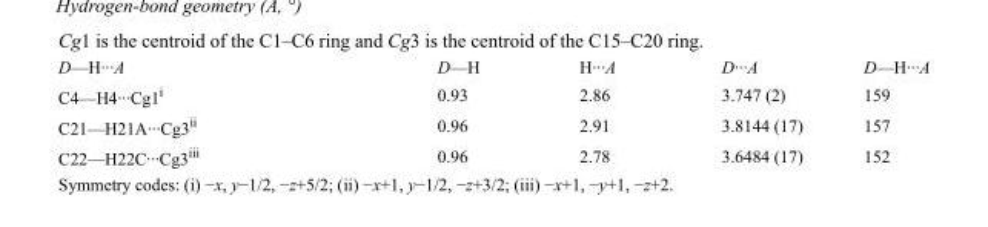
<table><tbody><tr><td>D—H···A</td><td>D—H</td><td>H···A</td><td>D···A</td><td>D—H···A</td></tr><tr><td>C4—H4···Cg1<sup>i</sup></td><td>0.93</td><td>2.86</td><td>3.747 (2)</td><td>159</td></tr><tr><td>C21—H21A···Cg3<sup>ii</sup></td><td>0.96</td><td>2.91</td><td>3.8144 (17)</td><td>157</td></tr><tr><td>C22—H22C···Cg3<sup>iii</sup></td><td>0.96</td><td>2.78</td><td>3.6484 (17)</td><td>152</td></tr></tbody></table>